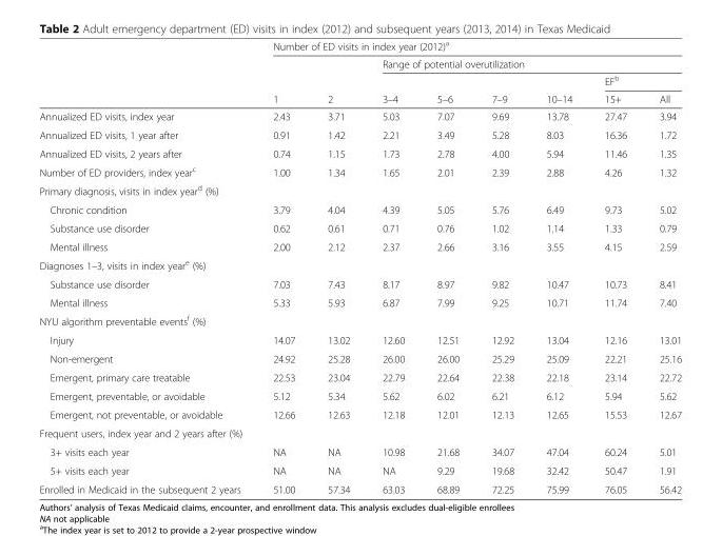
<table><thead><tr><td rowspan="4"></td><td colspan="8">Number of ED visits in index year (2012)<sup>a</sup></td></tr><tr><td rowspan="3">1</td><td rowspan="3">2</td><td colspan="6">Range of potential overutilization</td></tr><tr><td rowspan="2">3–4</td><td rowspan="2">5–6</td><td rowspan="2">7–9</td><td rowspan="2">10–14</td><td colspan="2">EF<sup>b</sup></td></tr><tr><td>15+</td><td>All</td></tr></thead><tbody><tr><td>Annualized ED visits, index year</td><td>2.43</td><td>3.71</td><td>5.03</td><td>7.07</td><td>9.69</td><td>13.78</td><td>27.47</td><td>3.94</td></tr><tr><td>Annualized ED visits, 1 year after</td><td>0.91</td><td>1.42</td><td>2.21</td><td>3.49</td><td>5.28</td><td>8.03</td><td>16.36</td><td>1.72</td></tr><tr><td>Annualized ED visits, 2 years after</td><td>0.74</td><td>1.15</td><td>1.73</td><td>2.78</td><td>4.00</td><td>5.94</td><td>11.46</td><td>1.35</td></tr><tr><td>Number of ED providers, index year<sup>c</sup></td><td>1.00</td><td>1.34</td><td>1.65</td><td>2.01</td><td>2.39</td><td>2.88</td><td>4.26</td><td>1.32</td></tr><tr><td colspan="9">Primary diagnosis, visits in index year<sup>d</sup> (%)</td></tr><tr><td>Chronic condition</td><td>3.79</td><td>4.04</td><td>4.39</td><td>5.05</td><td>5.76</td><td>6.49</td><td>9.73</td><td>5.02</td></tr><tr><td>Substance use disorder</td><td>0.62</td><td>0.61</td><td>0.71</td><td>0.76</td><td>1.02</td><td>1.14</td><td>1.33</td><td>0.79</td></tr><tr><td>Mental illness</td><td>2.00</td><td>2.12</td><td>2.37</td><td>2.66</td><td>3.16</td><td>3.55</td><td>4.15</td><td>2.59</td></tr><tr><td colspan="9">Diagnoses 1–3, visits in index year<sup>e</sup> (%)</td></tr><tr><td>Substance use disorder</td><td>7.03</td><td>7.43</td><td>8.17</td><td>8.97</td><td>9.82</td><td>10.47</td><td>10.73</td><td>8.41</td></tr><tr><td>Mental illness</td><td>5.33</td><td>5.93</td><td>6.87</td><td>7.99</td><td>9.25</td><td>10.71</td><td>11.74</td><td>7.40</td></tr><tr><td colspan="9">NYU algorithm preventable events<sup>f</sup> (%)</td></tr><tr><td>Injury</td><td>14.07</td><td>13.02</td><td>12.60</td><td>12.51</td><td>12.92</td><td>13.04</td><td>12.16</td><td>13.01</td></tr><tr><td>Non-emergent</td><td>24.92</td><td>25.28</td><td>26.00</td><td>26.00</td><td>25.29</td><td>25.09</td><td>22.21</td><td>25.16</td></tr><tr><td>Emergent, primary care treatable</td><td>22.53</td><td>23.04</td><td>22.79</td><td>22.64</td><td>22.38</td><td>22.18</td><td>23.14</td><td>22.72</td></tr><tr><td>Emergent, preventable, or avoidable</td><td>5.12</td><td>5.34</td><td>5.62</td><td>6.02</td><td>6.21</td><td>6.12</td><td>5.94</td><td>5.62</td></tr><tr><td>Emergent, not preventable, or avoidable</td><td>12.66</td><td>12.63</td><td>12.18</td><td>12.01</td><td>12.13</td><td>12.65</td><td>15.53</td><td>12.67</td></tr><tr><td colspan="9">Frequent users, index year and 2 years after (%)</td></tr><tr><td>3+ visits each year</td><td>NA</td><td>NA</td><td>10.98</td><td>21.68</td><td>34.07</td><td>47.04</td><td>60.24</td><td>5.01</td></tr><tr><td>5+ visits each year</td><td>NA</td><td>NA</td><td>NA</td><td>9.29</td><td>19.68</td><td>32.42</td><td>50.47</td><td>1.91</td></tr><tr><td>Enrolled in Medicaid in the subsequent 2 years</td><td>51.00</td><td>57.34</td><td>63.03</td><td>68.89</td><td>72.25</td><td>75.99</td><td>76.05</td><td>56.42</td></tr></tbody></table>